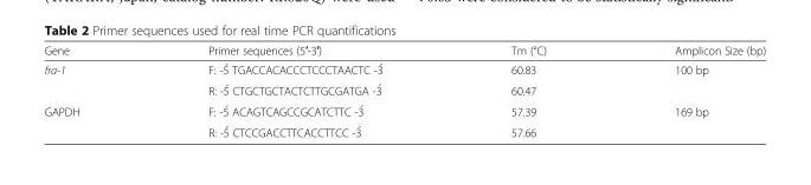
<table><thead><tr><td>Gene</td><td>Primer sequences (5′-3′)</td><td>Tm (°C)</td><td>Amplicon Size (bp)</td></tr></thead><tbody><tr><td rowspan="2">fra-1</td><td>F: -5́ TGACCACACCCTCCCTAACTC -3́</td><td>60.83</td><td rowspan="2">100 bp</td></tr><tr><td>R: -5́ CTGCTGCTACTCTTGCGATGA -3́</td><td>60.47</td></tr><tr><td rowspan="2">GAPDH</td><td>F: -5́ ACAGTCAGCCGCATCTTC -3́</td><td>57.39</td><td rowspan="2">169 bp</td></tr><tr><td>R: -5́ CTCCGACCTTCACCTTCC -3́</td><td>57.66</td></tr></tbody></table>